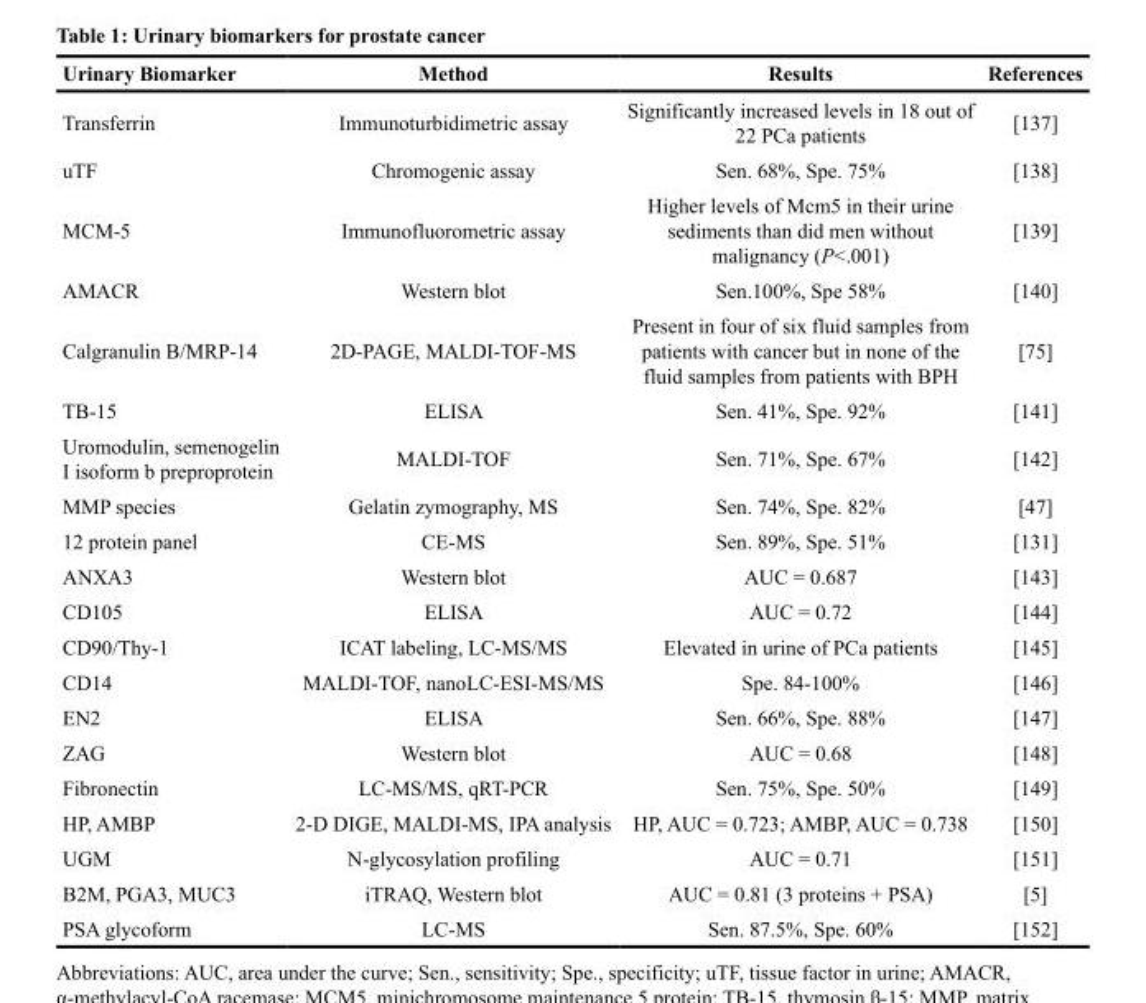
<table><thead><tr><td>Urinary Biomarker</td><td>Method</td><td>Results</td><td>References</td></tr></thead><tbody><tr><td>Transferrin</td><td>Immunoturbidimetric assay</td><td>Significantly increased levels in 18 out of 22 PCa patients</td><td>[137]</td></tr><tr><td>uTF</td><td>Chromogenic assay</td><td>Sen. 68%, Spe. 75%</td><td>[138]</td></tr><tr><td>MCM-5</td><td>Immunofluorometric assay</td><td>Higher levels of Mcm5 in their urine sediments than did men without malignancy (P&lt;.001)</td><td>[139]</td></tr><tr><td>AMACR</td><td>Western blot</td><td>Sen.100%, Spe 58%</td><td>[140]</td></tr><tr><td>Calgranulin B/MRP-14</td><td>2D-PAGE, MALDI-TOF-MS</td><td>Present in four of six fluid samples from patients with cancer but in none of the fluid samples from patients with BPH</td><td>[75]</td></tr><tr><td>TB-15</td><td>ELISA</td><td>Sen. 41%, Spe. 92%</td><td>[141]</td></tr><tr><td>Uromodulin, semenogelin I isoform b preproprotein</td><td>MALDI-TOF</td><td>Sen. 71%, Spe. 67%</td><td>[142]</td></tr><tr><td>MMP species</td><td>Gelatin zymography, MS</td><td>Sen. 74%, Spe. 82%</td><td>[47]</td></tr><tr><td>12 protein panel</td><td>CE-MS</td><td>Sen. 89%, Spe. 51%</td><td>[131]</td></tr><tr><td>ANXA3</td><td>Western blot</td><td>AUC = 0.687</td><td>[143]</td></tr><tr><td>CD105</td><td>ELISA</td><td>AUC = 0.72</td><td>[144]</td></tr><tr><td>CD90/Thy-1</td><td>ICAT labeling, LC-MS/MS</td><td>Elevated in urine of PCa patients</td><td>[145]</td></tr><tr><td>CD14</td><td>MALDI-TOF, nanoLC-ESI-MS/MS</td><td>Spe. 84-100%</td><td>[146]</td></tr><tr><td>EN2</td><td>ELISA</td><td>Sen. 66%, Spe. 88%</td><td>[147]</td></tr><tr><td>ZAG</td><td>Western blot</td><td>AUC = 0.68</td><td>[148]</td></tr><tr><td>Fibronectin</td><td>LC-MS/MS, qRT-PCR</td><td>Sen. 75%, Spe. 50%</td><td>[149]</td></tr><tr><td>HP, AMBP</td><td>2-D DIGE, MALDI-MS, IPA analysis</td><td>HP, AUC = 0.723; AMBP, AUC = 0.738</td><td>[150]</td></tr><tr><td>UGM</td><td>N-glycosylation profiling</td><td>AUC = 0.71</td><td>[151]</td></tr><tr><td>B2M, PGA3, MUC3</td><td>iTRAQ, Western blot</td><td>AUC = 0.81 (3 proteins + PSA)</td><td>[5]</td></tr><tr><td>PSA glycoform</td><td>LC-MS</td><td>Sen. 87.5%, Spe. 60%</td><td>[152]</td></tr></tbody></table>